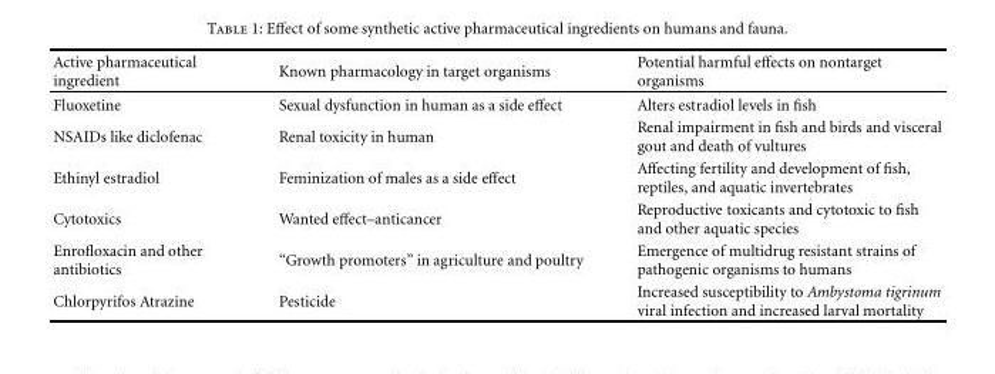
<table><thead><tr><td>Active pharmaceutical ingredient</td><td>Known pharmacology in target organisms</td><td>Potential harmful effects on nontarget organisms</td></tr></thead><tbody><tr><td>Fluoxetine</td><td>Sexual dysfunction in human as a side effect</td><td>Alters estradiol levels in fish</td></tr><tr><td>NSAIDs like diclofenac</td><td>Renal toxicity in human</td><td>Renal impairment in fish and birds and visceral gout and death of vultures</td></tr><tr><td>Ethinyl estradiol</td><td>Feminization of males as a side effect</td><td>Affecting fertility and development of fish, reptiles, and aquatic invertebrates</td></tr><tr><td>Cytotoxics</td><td>Wanted effect–anticancer</td><td>Reproductive toxicants and cytotoxic to fish and other aquatic species</td></tr><tr><td>Enrofloxacin and other antibiotics</td><td>“Growth promoters” in agriculture and poultry</td><td>Emergence of multidrug resistant strains of pathogenic organisms to humans</td></tr><tr><td>Chlorpyrifos Atrazine</td><td>Pesticide</td><td>Increased susceptibility to Ambystoma tigrinum viral infection and increased larval mortality</td></tr></tbody></table>